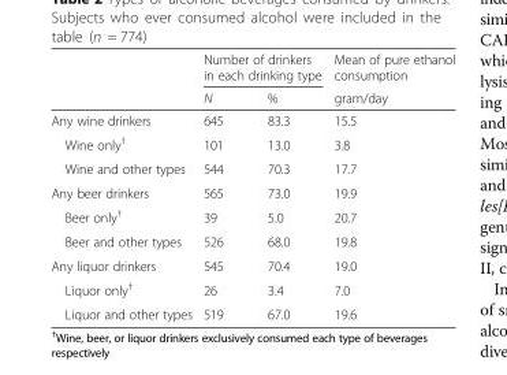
<table><thead><tr><td rowspan="2"></td><td colspan="2">Number of drinkers in each drinking type</td><td rowspan="2">Mean of pure ethanol consumption gram/day</td></tr><tr><td>N</td><td>%</td></tr></thead><tbody><tr><td>Any wine drinkers</td><td>645</td><td>83.3</td><td>15.5</td></tr><tr><td>Wine only<sup>†</sup></td><td>101</td><td>13.0</td><td>3.8</td></tr><tr><td>Wine and other types</td><td>544</td><td>70.3</td><td>17.7</td></tr><tr><td>Any beer drinkers</td><td>565</td><td>73.0</td><td>19.9</td></tr><tr><td>Beer only<sup>†</sup></td><td>39</td><td>5.0</td><td>20.7</td></tr><tr><td>Beer and other types</td><td>526</td><td>68.0</td><td>19.8</td></tr><tr><td>Any liquor drinkers</td><td>545</td><td>70.4</td><td>19.0</td></tr><tr><td>Liquor only<sup>†</sup></td><td>26</td><td>3.4</td><td>7.0</td></tr><tr><td>Liquor and other types</td><td>519</td><td>67.0</td><td>19.6</td></tr></tbody></table>